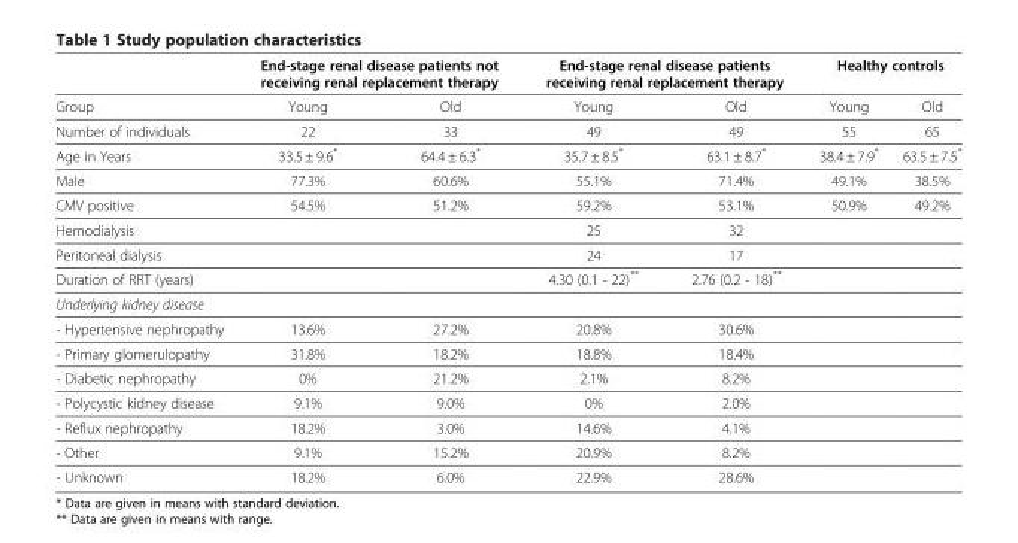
<table><thead><tr><td rowspan="2">Group</td><td colspan="2">End-stage renal disease patients not receiving renal replacement therapy</td><td colspan="2">End-stage renal disease patients receiving renal replacement therapy</td><td colspan="2">Healthy controls</td></tr><tr><td>Young</td><td>Old</td><td>Young</td><td>Old</td><td>Young</td><td>Old</td></tr></thead><tbody><tr><td>Number of individuals</td><td>22</td><td>33</td><td>49</td><td>49</td><td>55</td><td>65</td></tr><tr><td>Age in Years</td><td>33.5 ± 9.6*</td><td>64.4 ± 6.3*</td><td>35.7 ± 8.5*</td><td>63.1 ± 8.7*</td><td>38.4 ± 7.9*</td><td>63.5 ± 7.5*</td></tr><tr><td>Male</td><td>77.3%</td><td>60.6%</td><td>55.1%</td><td>71.4%</td><td>49.1%</td><td>38.5%</td></tr><tr><td>CMV positive</td><td>54.5%</td><td>51.2%</td><td>59.2%</td><td>53.1%</td><td>50.9%</td><td>49.2%</td></tr><tr><td>Hemodialysis</td><td></td><td></td><td>25</td><td>32</td><td></td><td></td></tr><tr><td>Peritoneal dialysis</td><td></td><td></td><td>24</td><td>17</td><td></td><td></td></tr><tr><td>Duration of RRT (years)</td><td></td><td></td><td>4.30 (0.1 - 22)**</td><td>2.76 (0.2 - 18)**</td><td></td><td></td></tr><tr><td colspan="7">Underlying kidney disease</td></tr><tr><td>- Hypertensive nephropathy</td><td>13.6%</td><td>27.2%</td><td>20.8%</td><td>30.6%</td><td></td><td></td></tr><tr><td>- Primary glomerulopathy</td><td>31.8%</td><td>18.2%</td><td>18.8%</td><td>18.4%</td><td></td><td></td></tr><tr><td>- Diabetic nephropathy</td><td>0%</td><td>21.2%</td><td>2.1%</td><td>8.2%</td><td></td><td></td></tr><tr><td>- Polycystic kidney disease</td><td>9.1%</td><td>9.0%</td><td>0%</td><td>2.0%</td><td></td><td></td></tr><tr><td>- Reflux nephropathy</td><td>18.2%</td><td>3.0%</td><td>14.6%</td><td>4.1%</td><td></td><td></td></tr><tr><td>- Other</td><td>9.1%</td><td>15.2%</td><td>20.9%</td><td>8.2%</td><td></td><td></td></tr><tr><td>- Unknown</td><td>18.2%</td><td>6.0%</td><td>22.9%</td><td>28.6%</td><td></td><td></td></tr></tbody></table>